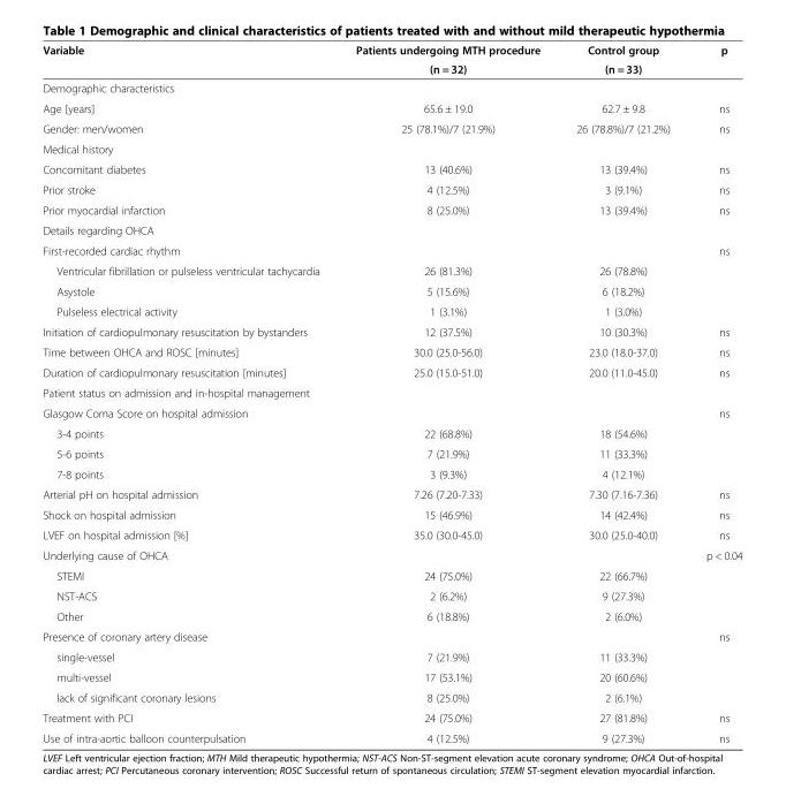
<table><thead><tr><td rowspan="2">Variable</td><td rowspan="2">Patients undergoing MTH procedure (n = 32)</td><td rowspan="2">Control group (n = 33)</td><td rowspan="2">p</td></tr><tr></tr></thead><tbody><tr><td colspan="4">Demographic characteristics</td></tr><tr><td>Age [years]</td><td>65.6 ± 19.0</td><td>62.7 ± 9.8</td><td>ns</td></tr><tr><td>Gender: men/women</td><td>25 (78.1%)/7 (21.9%)</td><td>26 (78.8%)/7 (21.2%)</td><td>ns</td></tr><tr><td colspan="4">Medical history</td></tr><tr><td>Concomitant diabetes</td><td>13 (40.6%)</td><td>13 (39.4%)</td><td>ns</td></tr><tr><td>Prior stroke</td><td>4 (12.5%)</td><td>3 (9.1%)</td><td>ns</td></tr><tr><td>Prior myocardial infarction</td><td>8 (25.0%)</td><td>13 (39.4%)</td><td>ns</td></tr><tr><td colspan="4">Details regarding OHCA</td></tr><tr><td colspan="3">First-recorded cardiac rhythm</td><td rowspan="4">ns</td></tr><tr><td>Ventricular fibrillation or pulseless ventricular tachycardia</td><td>26 (81.3%)</td><td>26 (78.8%)</td></tr><tr><td>Asystole</td><td>5 (15.6%)</td><td>6 (18.2%)</td></tr><tr><td>Pulseless electrical activity</td><td>1 (3.1%)</td><td>1 (3.0%)</td></tr><tr><td>Initiation of cardiopulmonary resuscitation by bystanders</td><td>12 (37.5%)</td><td>10 (30.3%)</td><td>ns</td></tr><tr><td>Time between OHCA and ROSC [minutes]</td><td>30.0 (25.0-56.0)</td><td>23.0 (18.0-37.0)</td><td>ns</td></tr><tr><td>Duration of cardiopulmonary resuscitation [minutes]</td><td>25.0 (15.0-51.0)</td><td>20.0 (11.0-45.0)</td><td>ns</td></tr><tr><td colspan="4">Patient status on admission and in-hospital management</td></tr><tr><td colspan="3">Glasgow Coma Score on hospital admission</td><td rowspan="4">ns</td></tr><tr><td>3-4 points</td><td>22 (68.8%)</td><td>18 (54.6%)</td></tr><tr><td>5-6 points</td><td>7 (21.9%)</td><td>11 (33.3%)</td></tr><tr><td>7-8 points</td><td>3 (9.3%)</td><td>4 (12.1%)</td></tr><tr><td>Arterial pH on hospital admission</td><td>7.26 (7.20-7.33)</td><td>7.30 (7.16-7.36)</td><td>ns</td></tr><tr><td>Shock on hospital admission</td><td>15 (46.9%)</td><td>14 (42.4%)</td><td>ns</td></tr><tr><td>LVEF on hospital admission [%]</td><td>35.0 (30.0-45.0)</td><td>30.0 (25.0-40.0)</td><td>ns</td></tr><tr><td colspan="3">Underlying cause of OHCA</td><td rowspan="4">p &lt; 0.04</td></tr><tr><td>STEMI</td><td>24 (75.0%)</td><td>22 (66.7%)</td></tr><tr><td>NST-ACS</td><td>2 (6.2%)</td><td>9 (27.3%)</td></tr><tr><td>Other</td><td>6 (18.8%)</td><td>2 (6.0%)</td></tr><tr><td colspan="3">Presence of coronary artery disease</td><td rowspan="4">ns</td></tr><tr><td>single-vessel</td><td>7 (21.9%)</td><td>11 (33.3%)</td></tr><tr><td>multi-vessel</td><td>17 (53.1%)</td><td>20 (60.6%)</td></tr><tr><td>lack of significant coronary lesions</td><td>8 (25.0%)</td><td>2 (6.1%)</td></tr><tr><td>Treatment with PCI</td><td>24 (75.0%)</td><td>27 (81.8%)</td><td>ns</td></tr><tr><td>Use of intra-aortic balloon counterpulsation</td><td>4 (12.5%)</td><td>9 (27.3%)</td><td>ns</td></tr></tbody></table>